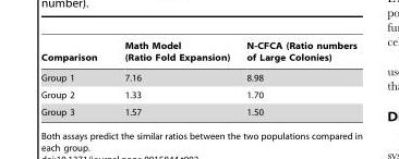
<table><thead><tr><td>Comparison</td><td>Math Model (Ratio Fold Expansion)</td><td>N-CFCA (Ratio numbers of Large Colonies)</td></tr></thead><tbody><tr><td>Group 1</td><td>7.16</td><td>8.98</td></tr><tr><td>Group 2</td><td>1.33</td><td>1.70</td></tr><tr><td>Group 3</td><td>1.57</td><td>1.50</td></tr></tbody></table>